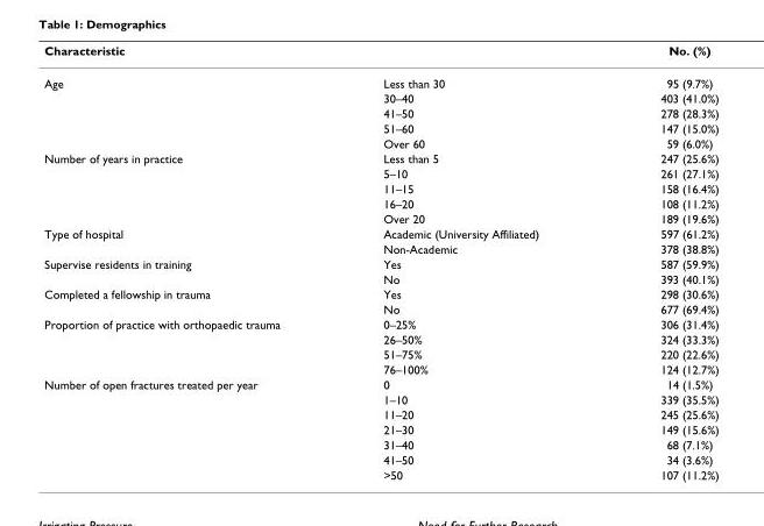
<table><thead><tr><td>Characteristic</td><td></td><td>No. (%)</td></tr></thead><tbody><tr><td rowspan="5">Age</td><td>Less than 30</td><td>95 (9.7%)</td></tr><tr><td>30–40</td><td>403 (41.0%)</td></tr><tr><td>41–50</td><td>278 (28.3%)</td></tr><tr><td>51–60</td><td>147 (15.0%)</td></tr><tr><td>Over 60</td><td>59 (6.0%)</td></tr><tr><td rowspan="5">Number of years in practice</td><td>Less than 5</td><td>247 (25.6%)</td></tr><tr><td>5–10</td><td>261 (27.1%)</td></tr><tr><td>11–15</td><td>158 (16.4%)</td></tr><tr><td>16–20</td><td>108 (11.2%)</td></tr><tr><td>Over 20</td><td>189 (19.6%)</td></tr><tr><td rowspan="2">Type of hospital</td><td>Academic (University Affiliated)</td><td>597 (61.2%)</td></tr><tr><td>Non-Academic</td><td>378 (38.8%)</td></tr><tr><td rowspan="2">Supervise residents in training</td><td>Yes</td><td>587 (59.9%)</td></tr><tr><td>No</td><td>393 (40.1%)</td></tr><tr><td rowspan="2">Completed a fellowship in trauma</td><td>Yes</td><td>298 (30.6%)</td></tr><tr><td>No</td><td>677 (69.4%)</td></tr><tr><td rowspan="4">Proportion of practice with orthopaedic trauma</td><td>0–25%</td><td>306 (31.4%)</td></tr><tr><td>26–50%</td><td>324 (33.3%)</td></tr><tr><td>51–75%</td><td>220 (22.6%)</td></tr><tr><td>76–100%</td><td>124 (12.7%)</td></tr><tr><td rowspan="7">Number of open fractures treated per year</td><td>0</td><td>14 (1.5%)</td></tr><tr><td>1–10</td><td>339 (35.5%)</td></tr><tr><td>11–20</td><td>245 (25.6%)</td></tr><tr><td>21–30</td><td>149 (15.6%)</td></tr><tr><td>31–40</td><td>68 (7.1%)</td></tr><tr><td>41–50</td><td>34 (3.6%)</td></tr><tr><td>&gt;50</td><td>107 (11.2%)</td></tr></tbody></table>